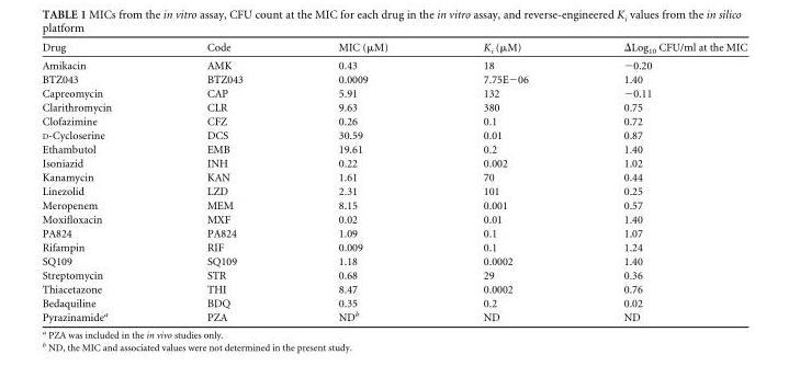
<table><thead><tr><td>Drug</td><td>Code</td><td>MIC (μM)</td><td>K<sub>i</sub> (μM)</td><td>ΔLog<sub>10</sub> CFU/ml at the MIC</td></tr></thead><tbody><tr><td>Amikacin</td><td>AMK</td><td>0.43</td><td>18</td><td>−0.20</td></tr><tr><td>BTZ043</td><td>BTZ043</td><td>0.0009</td><td>7.75E−06</td><td>1.40</td></tr><tr><td>Capreomycin</td><td>CAP</td><td>5.91</td><td>132</td><td>−0.11</td></tr><tr><td>Clarithromycin</td><td>CLR</td><td>9.63</td><td>380</td><td>0.75</td></tr><tr><td>Clofazimine</td><td>CFZ</td><td>0.26</td><td>0.1</td><td>0.72</td></tr><tr><td>D-Cycloserine</td><td>DCS</td><td>30.59</td><td>0.01</td><td>0.87</td></tr><tr><td>Ethambutol</td><td>EMB</td><td>19.61</td><td>0.2</td><td>1.40</td></tr><tr><td>Isoniazid</td><td>INH</td><td>0.22</td><td>0.002</td><td>1.02</td></tr><tr><td>Kanamycin</td><td>KAN</td><td>1.61</td><td>70</td><td>0.44</td></tr><tr><td>Linezolid</td><td>LZD</td><td>2.31</td><td>101</td><td>0.25</td></tr><tr><td>Meropenem</td><td>MEM</td><td>8.15</td><td>0.001</td><td>0.57</td></tr><tr><td>Moxifloxacin</td><td>MXF</td><td>0.02</td><td>0.01</td><td>1.40</td></tr><tr><td>PA824</td><td>PA824</td><td>1.09</td><td>0.1</td><td>1.07</td></tr><tr><td>Rifampin</td><td>RIF</td><td>0.009</td><td>0.1</td><td>1.24</td></tr><tr><td>SQ109</td><td>SQ109</td><td>1.18</td><td>0.0002</td><td>1.40</td></tr><tr><td>Streptomycin</td><td>STR</td><td>0.68</td><td>29</td><td>0.36</td></tr><tr><td>Thiacetazone</td><td>THI</td><td>8.47</td><td>0.0002</td><td>0.76</td></tr><tr><td>Bedaquiline</td><td>BDQ</td><td>0.35</td><td>0.2</td><td>0.02</td></tr><tr><td>Pyrazinamide<sup>a</sup></td><td>PZA</td><td>ND<sup>b</sup></td><td>ND</td><td>ND</td></tr></tbody></table>